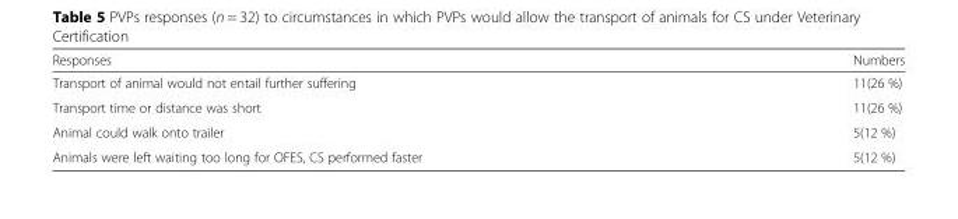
<table><thead><tr><td>Responses</td><td>Numbers</td></tr></thead><tbody><tr><td>Transport of animal would not entail further suffering</td><td>11(26 %)</td></tr><tr><td>Transport time or distance was short</td><td>11(26 %)</td></tr><tr><td>Animal could walk onto trailer</td><td>5(12 %)</td></tr><tr><td>Animals were left waiting too long for OFES, CS performed faster</td><td>5(12 %)</td></tr></tbody></table>